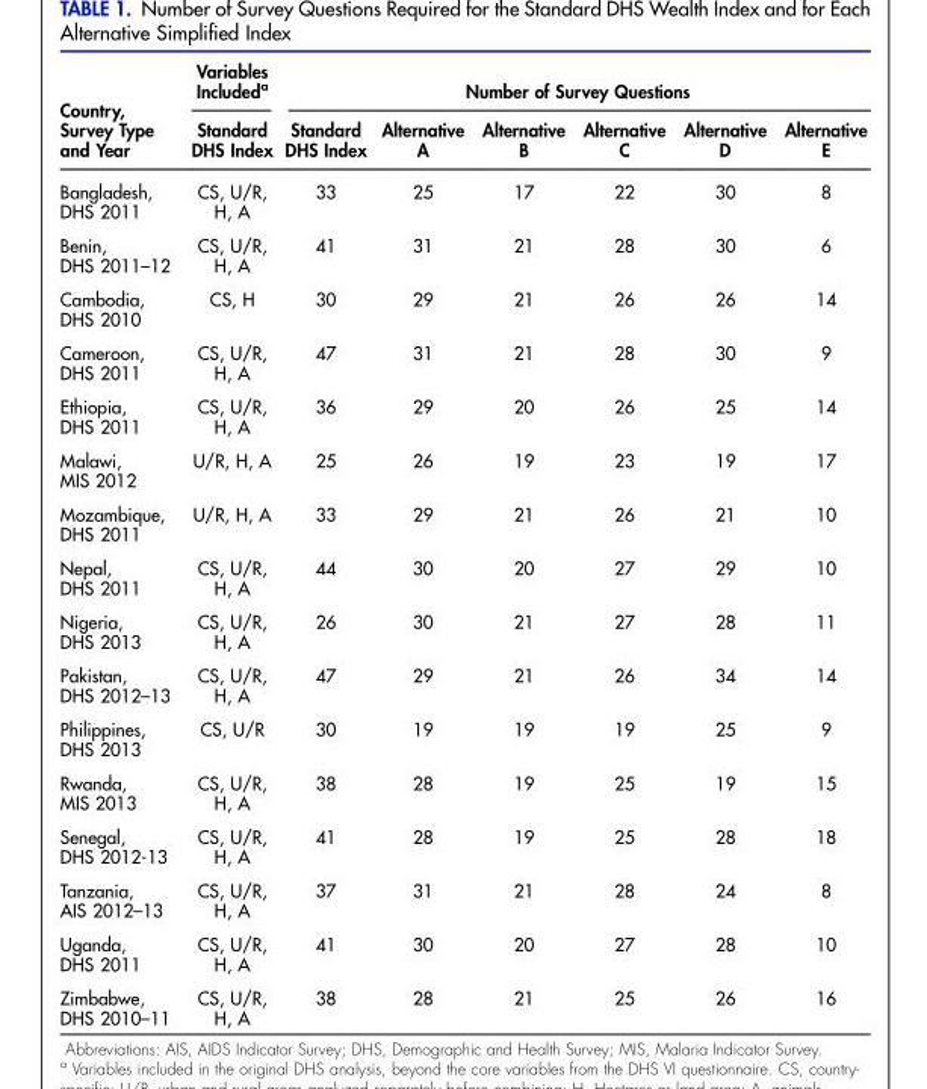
<table><thead><tr><td rowspan="2">Country, Survey Type and Year</td><td rowspan="2">Variables Included<sup>a</sup> Standard DHS Index</td><td colspan="6">Number of Survey Questions</td></tr><tr><td>Standard DHS Index</td><td>Alternative A</td><td>Alternative B</td><td>Alternative C</td><td>Alternative D</td><td>Alternative E</td></tr></thead><tbody><tr><td>Bangladesh, DHS 2011</td><td>CS, U/R, H, A</td><td>33</td><td>25</td><td>17</td><td>22</td><td>30</td><td>8</td></tr><tr><td>Benin, DHS 2011–12</td><td>CS, U/R, H, A</td><td>41</td><td>31</td><td>21</td><td>28</td><td>30</td><td>6</td></tr><tr><td>Cambodia, DHS 2010</td><td>CS, H</td><td>30</td><td>29</td><td>21</td><td>26</td><td>26</td><td>14</td></tr><tr><td>Cameroon, DHS 2011</td><td>CS, U/R, H, A</td><td>47</td><td>31</td><td>21</td><td>28</td><td>30</td><td>9</td></tr><tr><td>Ethiopia, DHS 2011</td><td>CS, U/R, H, A</td><td>36</td><td>29</td><td>20</td><td>26</td><td>25</td><td>14</td></tr><tr><td>Malawi, MIS 2012</td><td>U/R, H, A</td><td>25</td><td>26</td><td>19</td><td>23</td><td>19</td><td>17</td></tr><tr><td>Mozambique, DHS 2011</td><td>U/R, H, A</td><td>33</td><td>29</td><td>21</td><td>26</td><td>21</td><td>10</td></tr><tr><td>Nepal, DHS 2011</td><td>CS, U/R, H, A</td><td>44</td><td>30</td><td>20</td><td>27</td><td>29</td><td>10</td></tr><tr><td>Nigeria, DHS 2013</td><td>CS, U/R, H, A</td><td>26</td><td>30</td><td>21</td><td>27</td><td>28</td><td>11</td></tr><tr><td>Pakistan, DHS 2012–13</td><td>CS, U/R, H, A</td><td>47</td><td>29</td><td>21</td><td>26</td><td>34</td><td>14</td></tr><tr><td>Philippines, DHS 2013</td><td>CS, U/R</td><td>30</td><td>19</td><td>19</td><td>19</td><td>25</td><td>9</td></tr><tr><td>Rwanda, MIS 2013</td><td>CS, U/R, H, A</td><td>38</td><td>28</td><td>19</td><td>25</td><td>19</td><td>15</td></tr><tr><td>Senegal, DHS 2012-13</td><td>CS, U/R, H, A</td><td>41</td><td>28</td><td>19</td><td>25</td><td>28</td><td>18</td></tr><tr><td>Tanzania, AIS 2012–13</td><td>CS, U/R, H, A</td><td>37</td><td>31</td><td>21</td><td>28</td><td>24</td><td>8</td></tr><tr><td>Uganda, DHS 2011</td><td>CS, U/R, H, A</td><td>41</td><td>30</td><td>20</td><td>27</td><td>28</td><td>10</td></tr><tr><td>Zimbabwe, DHS 2010–11</td><td>CS, U/R, H, A</td><td>38</td><td>28</td><td>21</td><td>25</td><td>26</td><td>16</td></tr></tbody></table>